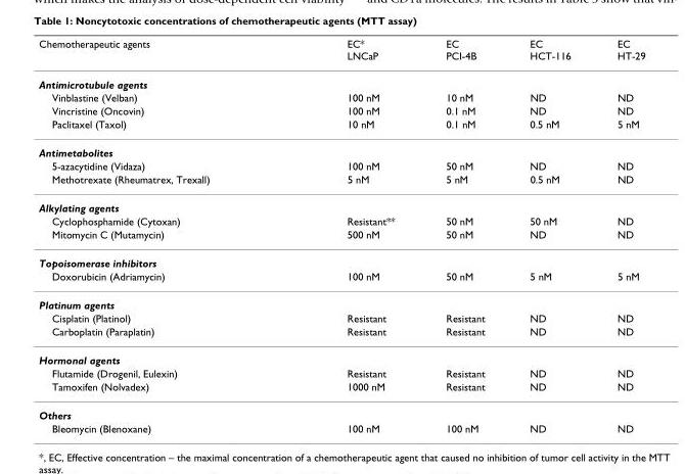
<table><thead><tr><td>Chemotherapeutic agents</td><td>EC* LNCaP</td><td>EC PCI-4B</td><td>EC HCT-116</td><td>EC HT-29</td></tr></thead><tbody><tr><td colspan="5">Antimicrotubule agents</td></tr><tr><td>Vinblastine (Velban)</td><td>100 nM</td><td>10 nM</td><td>ND</td><td>ND</td></tr><tr><td>Vincristine (Oncovin)</td><td>100 nM</td><td>0.1 nM</td><td>ND</td><td>ND</td></tr><tr><td>Paclitaxel (Taxol)</td><td>10 nM</td><td>0.1 nM</td><td>0.5 nM</td><td>5 nM</td></tr><tr><td colspan="5">Antimetabolites</td></tr><tr><td>5-azacytidine (Vidaza)</td><td>100 nM</td><td>50 nM</td><td>ND</td><td>ND</td></tr><tr><td>Methotrexate (Rheumatrex, Trexall)</td><td>5 nM</td><td>5 nM</td><td>0.5 nM</td><td>ND</td></tr><tr><td colspan="5">Alkylating agents</td></tr><tr><td>Cyclophosphamide (Cytoxan)</td><td>Resistant**</td><td>50 nM</td><td>50 nM</td><td>ND</td></tr><tr><td>Mitomycin C (Mutamycin)</td><td>500 nM</td><td>50 nM</td><td>ND</td><td>ND</td></tr><tr><td colspan="5">Topoisomerase inhibitors</td></tr><tr><td>Doxorubicin (Adriamycin)</td><td>100 nM</td><td>50 nM</td><td>5 nM</td><td>5 nM</td></tr><tr><td colspan="5">Platinum agents</td></tr><tr><td>Cisplatin (Platinol)</td><td>Resistant</td><td>Resistant</td><td>ND</td><td>ND</td></tr><tr><td>Carboplatin (Paraplatin)</td><td>Resistant</td><td>Resistant</td><td>ND</td><td>ND</td></tr><tr><td colspan="5">Hormonal agents</td></tr><tr><td>Flutamide (Drogenil, Eulexin)</td><td>Resistant</td><td>Resistant</td><td>ND</td><td>ND</td></tr><tr><td>Tamoxifen (Nolvadex)</td><td>1000 nM</td><td>Resistant</td><td>ND</td><td>ND</td></tr><tr><td colspan="5">Others</td></tr><tr><td>Bleomycin (Blenoxane)</td><td>100 nM</td><td>100 nM</td><td>ND</td><td>ND</td></tr></tbody></table>